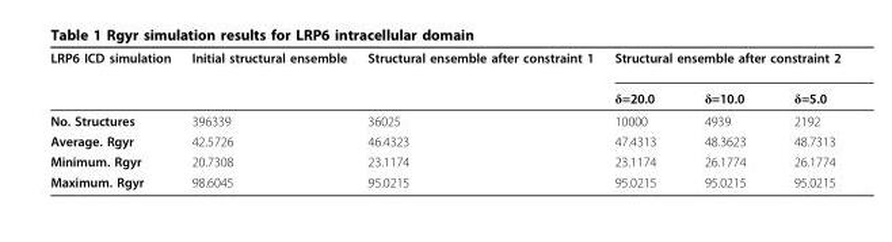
<table><thead><tr><td rowspan="2">LRP6 ICD simulation</td><td rowspan="2">Initial structural ensemble</td><td rowspan="2">Structural ensemble after constraint 1</td><td colspan="3">Structural ensemble after constraint 2</td></tr><tr><td>δ=20.0</td><td>δ=10.0</td><td>δ=5.0</td></tr></thead><tbody><tr><td>No. Structures</td><td>396339</td><td>36025</td><td>10000</td><td>4939</td><td>2192</td></tr><tr><td>Average. Rgyr</td><td>42.5726</td><td>46.4323</td><td>47.4313</td><td>48.3623</td><td>48.7313</td></tr><tr><td>Minimum. Rgyr</td><td>20.7308</td><td>23.1174</td><td>23.1174</td><td>26.1774</td><td>26.1774</td></tr><tr><td>Maximum. Rgyr</td><td>98.6045</td><td>95.0215</td><td>95.0215</td><td>95.0215</td><td>95.0215</td></tr></tbody></table>